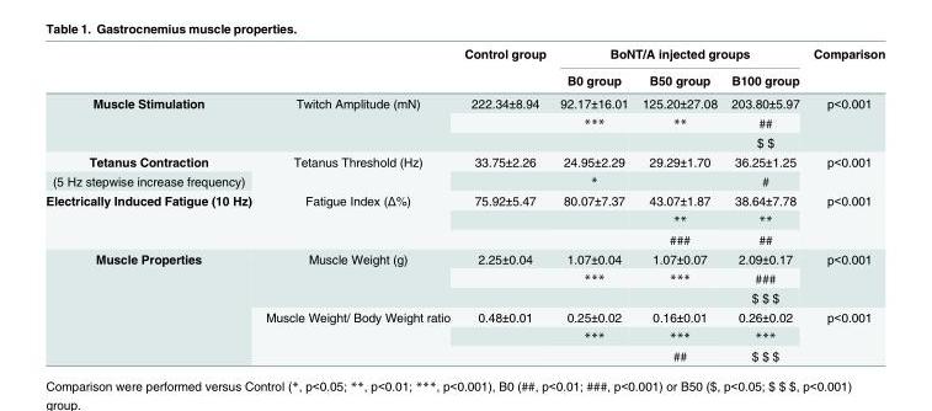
<table><thead><tr><td rowspan="2"></td><td rowspan="2"></td><td rowspan="2">Control group</td><td colspan="3">BoNT/A injected groups</td><td rowspan="2">Comparison</td></tr><tr><td>B0 group</td><td>B50 group</td><td>B100 group</td></tr></thead><tbody><tr><td rowspan="3">Muscle Stimulation</td><td rowspan="3">Twitch Amplitude (mN)</td><td>222.34±8.94</td><td>92.17±16.01</td><td>125.20±27.08</td><td>203.80±5.97</td><td rowspan="3">p&lt;0.001</td></tr><tr><td></td><td>***</td><td>**</td><td>##</td></tr><tr><td></td><td></td><td></td><td>$ $</td></tr><tr><td>Tetanus Contraction</td><td rowspan="2">Tetanus Threshold (Hz)</td><td>33.75±2.26</td><td>24.95±2.29</td><td>29.29±1.70</td><td>36.25±1.25</td><td rowspan="2">p&lt;0.001</td></tr><tr><td>(5 Hz stepwise increase frequency)</td><td></td><td>*</td><td></td><td>#</td></tr><tr><td rowspan="3">Electrically Induced Fatigue (10 Hz)</td><td rowspan="3">Fatigue Index (Δ%)</td><td>75.92±5.47</td><td>80.07±7.37</td><td>43.07±1.87</td><td>38.64±7.78</td><td rowspan="3">p&lt;0.001</td></tr><tr><td></td><td></td><td>**</td><td>**</td></tr><tr><td></td><td></td><td>###</td><td>##</td></tr><tr><td rowspan="6">Muscle Properties</td><td rowspan="3">Muscle Weight (g)</td><td>2.25±0.04</td><td>1.07±0.04</td><td>1.07±0.07</td><td>2.09±0.17</td><td rowspan="3">p&lt;0.001</td></tr><tr><td></td><td>***</td><td>***</td><td>###</td></tr><tr><td></td><td></td><td></td><td>$ $ $</td></tr><tr><td rowspan="3">Muscle Weight/ Body Weight ratio</td><td>0.48±0.01</td><td>0.25±0.02</td><td>0.16±0.01</td><td>0.26±0.02</td><td rowspan="3">p&lt;0.001</td></tr><tr><td></td><td>***</td><td>***</td><td>***</td></tr><tr><td></td><td></td><td>##</td><td>$ $ $</td></tr></tbody></table>